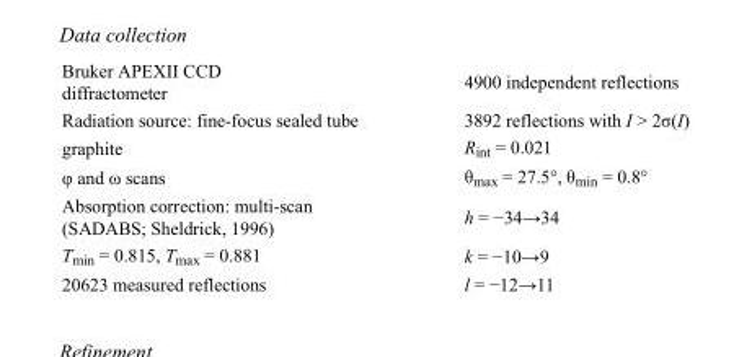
<table><tbody><tr><td>Bruker APEXII CCD diffractometer</td><td>4900 independent reflections</td></tr><tr><td>Radiation source: fine-focus sealed tube</td><td>3892 reflections with I &gt; 2σ(I)</td></tr><tr><td>graphite</td><td>R<sub>int</sub> = 0.021</td></tr><tr><td>φ and ω scans</td><td>θ<sub>max</sub> = 27.5°, θ<sub>min</sub> = 0.8°</td></tr><tr><td>Absorption correction: multi-scan (SADABS; Sheldrick, 1996)</td><td>h = −34→34</td></tr><tr><td>T<sub>min</sub> = 0.815, T<sub>max</sub> = 0.881</td><td>k = −10→9</td></tr><tr><td>20623 measured reflections</td><td>l = −12→11</td></tr></tbody></table>